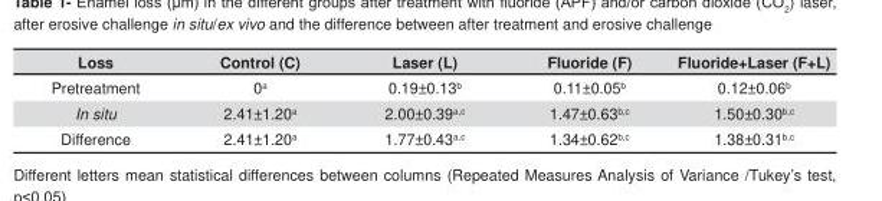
<table><thead><tr><td>Loss</td><td>Control (C)</td><td>Laser (L)</td><td>Fluoride (F)</td><td>Fluoride+Laser (F+L)</td></tr></thead><tbody><tr><td>Pretreatment</td><td>0<sup>a</sup></td><td>0.19±0.13<sup>b</sup></td><td>0.11±0.05<sup>b</sup></td><td>0.12±0.06<sup>b</sup></td></tr><tr><td>In situ</td><td>2.41±1.20<sup>a</sup></td><td>2.00±0.39<sup>a,c</sup></td><td>1.47±0.63<sup>b,c</sup></td><td>1.50±0.30<sup>b,c</sup></td></tr><tr><td>Difference</td><td>2.41±1.20<sup>a</sup></td><td>1.77±0.43<sup>a,c</sup></td><td>1.34±0.62<sup>b,c</sup></td><td>1.38±0.31<sup>b,c</sup></td></tr></tbody></table>